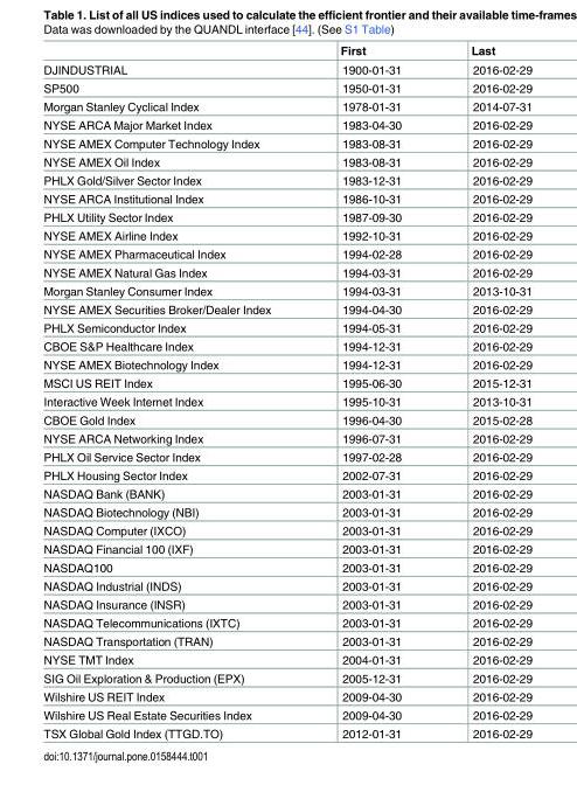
<table><thead><tr><td></td><td>First</td><td>Last</td></tr></thead><tbody><tr><td>DJINDUSTRIAL</td><td>1900-01-31</td><td>2016-02-29</td></tr><tr><td>SP500</td><td>1950-01-31</td><td>2016-02-29</td></tr><tr><td>Morgan Stanley Cyclical Index</td><td>1978-01-31</td><td>2014-07-31</td></tr><tr><td>NYSE ARCA Major Market Index</td><td>1983-04-30</td><td>2016-02-29</td></tr><tr><td>NYSE AMEX Computer Technology Index</td><td>1983-08-31</td><td>2016-02-29</td></tr><tr><td>NYSE AMEX Oil Index</td><td>1983-08-31</td><td>2016-02-29</td></tr><tr><td>PHLX Gold/Silver Sector Index</td><td>1983-12-31</td><td>2016-02-29</td></tr><tr><td>NYSE ARCA Institutional Index</td><td>1986-10-31</td><td>2016-02-29</td></tr><tr><td>PHLX Utility Sector Index</td><td>1987-09-30</td><td>2016-02-29</td></tr><tr><td>NYSE AMEX Airline Index</td><td>1992-10-31</td><td>2016-02-29</td></tr><tr><td>NYSE AMEX Pharmaceutical Index</td><td>1994-02-28</td><td>2016-02-29</td></tr><tr><td>NYSE AMEX Natural Gas Index</td><td>1994-03-31</td><td>2016-02-29</td></tr><tr><td>Morgan Stanley Consumer Index</td><td>1994-03-31</td><td>2013-10-31</td></tr><tr><td>NYSE AMEX Securities Broker/Dealer Index</td><td>1994-04-30</td><td>2016-02-29</td></tr><tr><td>PHLX Semiconductor Index</td><td>1994-05-31</td><td>2016-02-29</td></tr><tr><td>CBOE S&amp;P Healthcare Index</td><td>1994-12-31</td><td>2016-02-29</td></tr><tr><td>NYSE AMEX Biotechnology Index</td><td>1994-12-31</td><td>2016-02-29</td></tr><tr><td>MSCI US REIT Index</td><td>1995-06-30</td><td>2015-12-31</td></tr><tr><td>Interactive Week Internet Index</td><td>1995-10-31</td><td>2013-10-31</td></tr><tr><td>CBOE Gold Index</td><td>1996-04-30</td><td>2015-02-28</td></tr><tr><td>NYSE ARCA Networking Index</td><td>1996-07-31</td><td>2016-02-29</td></tr><tr><td>PHLX Oil Service Sector Index</td><td>1997-02-28</td><td>2016-02-29</td></tr><tr><td>PHLX Housing Sector Index</td><td>2002-07-31</td><td>2016-02-29</td></tr><tr><td>NASDAQ Bank (BANK)</td><td>2003-01-31</td><td>2016-02-29</td></tr><tr><td>NASDAQ Biotechnology (NBI)</td><td>2003-01-31</td><td>2016-02-29</td></tr><tr><td>NASDAQ Computer (IXCO)</td><td>2003-01-31</td><td>2016-02-29</td></tr><tr><td>NASDAQ Financial 100 (IXF)</td><td>2003-01-31</td><td>2016-02-29</td></tr><tr><td>NASDAQ100</td><td>2003-01-31</td><td>2016-02-29</td></tr><tr><td>NASDAQ Industrial (INDS)</td><td>2003-01-31</td><td>2016-02-29</td></tr><tr><td>NASDAQ Insurance (INSR)</td><td>2003-01-31</td><td>2016-02-29</td></tr><tr><td>NASDAQ Telecommunications (IXTC)</td><td>2003-01-31</td><td>2016-02-29</td></tr><tr><td>NASDAQ Transportation (TRAN)</td><td>2003-01-31</td><td>2016-02-29</td></tr><tr><td>NYSE TMT Index</td><td>2004-01-31</td><td>2016-02-29</td></tr><tr><td>SIG Oil Exploration &amp; Production (EPX)</td><td>2005-12-31</td><td>2016-02-29</td></tr><tr><td>Wilshire US REIT Index</td><td>2009-04-30</td><td>2016-02-29</td></tr><tr><td>Wilshire US Real Estate Securities Index</td><td>2009-04-30</td><td>2016-02-29</td></tr><tr><td>TSX Global Gold Index (TTGD.TO)</td><td>2012-01-31</td><td>2016-02-29</td></tr></tbody></table>